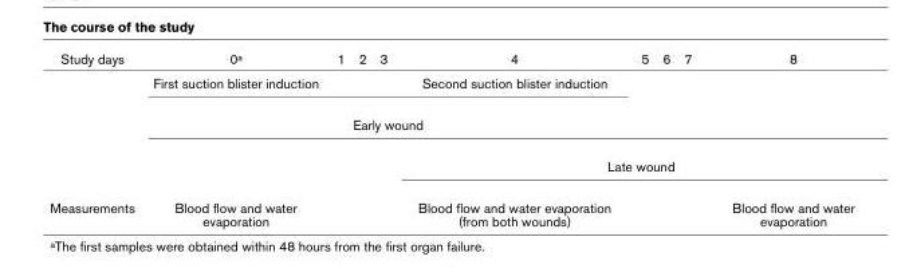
<table><thead><tr><td>Study days</td><td>0<sup>a</sup></td><td>1</td><td>2</td><td>3</td><td>4</td><td>5</td><td>6</td><td>7</td><td>8</td></tr></thead><tbody><tr><td></td><td>First suction blister induction</td><td></td><td></td><td></td><td>Second suction blister induction</td><td></td><td></td><td></td><td></td></tr><tr><td></td><td colspan="5">Early wound</td><td></td><td></td><td></td><td></td></tr><tr><td></td><td></td><td></td><td></td><td></td><td colspan="5">Late wound</td></tr><tr><td>Measurements</td><td>Blood flow and water evaporation</td><td></td><td></td><td></td><td>Blood flow and water evaporation (from both wounds)</td><td></td><td></td><td></td><td>Blood flow and water evaporation</td></tr></tbody></table>